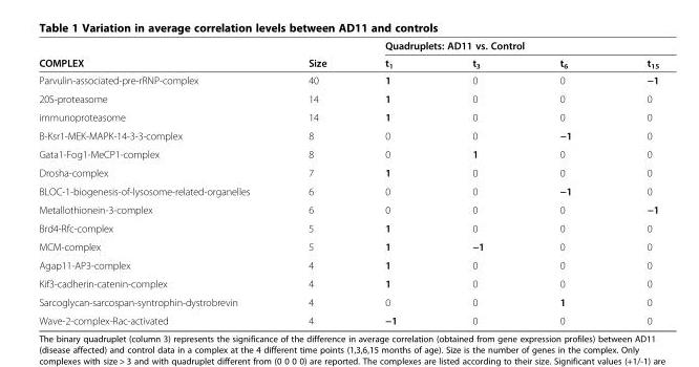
<table><thead><tr><td rowspan="2">COMPLEX</td><td rowspan="2">Size</td><td colspan="4">Quadruplets: AD11 vs. Control</td></tr><tr><td>t<sub>1</sub></td><td>t<sub>3</sub></td><td>t<sub>6</sub></td><td>t<sub>15</sub></td></tr></thead><tbody><tr><td>Parvulin-associated-pre-rRNP-complex</td><td>40</td><td>1</td><td>0</td><td>0</td><td>−1</td></tr><tr><td>20S-proteasome</td><td>14</td><td>1</td><td>0</td><td>0</td><td>0</td></tr><tr><td>immunoproteasome</td><td>14</td><td>1</td><td>0</td><td>0</td><td>0</td></tr><tr><td>B-Ksr1-MEK-MAPK-14-3-3-complex</td><td>8</td><td>0</td><td>0</td><td>−1</td><td>0</td></tr><tr><td>Gata1-Fog1-MeCP1-complex</td><td>8</td><td>0</td><td>1</td><td>0</td><td>0</td></tr><tr><td>Drosha-complex</td><td>7</td><td>1</td><td>0</td><td>0</td><td>0</td></tr><tr><td>BLOC-1-biogenesis-of-lysosome-related-organelles</td><td>6</td><td>0</td><td>0</td><td>−1</td><td>0</td></tr><tr><td>Metallothionein-3-complex</td><td>6</td><td>0</td><td>0</td><td>0</td><td>−1</td></tr><tr><td>Brd4-Rfc-complex</td><td>5</td><td>1</td><td>0</td><td>0</td><td>0</td></tr><tr><td>MCM-complex</td><td>5</td><td>1</td><td>−1</td><td>0</td><td>0</td></tr><tr><td>Agap11-AP3-complex</td><td>4</td><td>1</td><td>0</td><td>0</td><td>0</td></tr><tr><td>Kif3-cadherin-catenin-complex</td><td>4</td><td>1</td><td>0</td><td>0</td><td>0</td></tr><tr><td>Sarcoglycan-sarcospan-syntrophin-dystrobrevin</td><td>4</td><td>0</td><td>0</td><td>1</td><td>0</td></tr><tr><td>Wave-2-complex-Rac-activated</td><td>4</td><td>−1</td><td>0</td><td>0</td><td>0</td></tr></tbody></table>